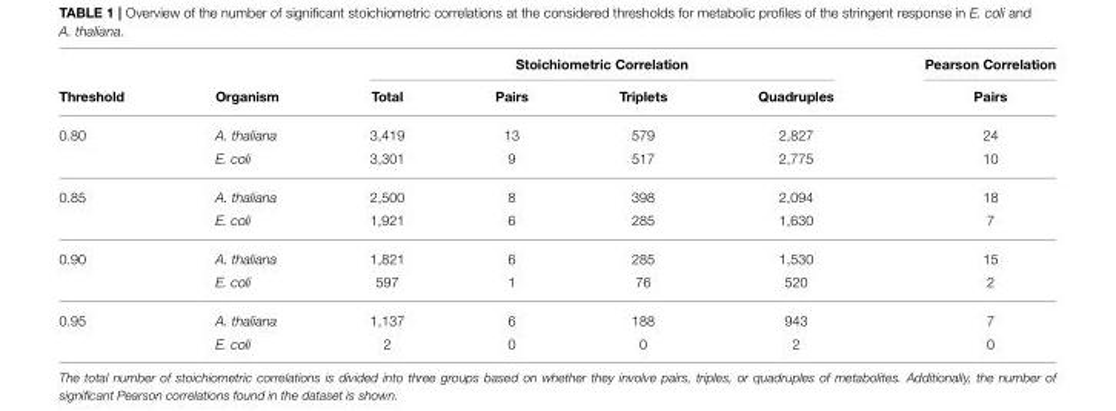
<table><thead><tr><td rowspan="2">Threshold</td><td rowspan="2">Organism</td><td colspan="4">Stoichiometric Correlation</td><td rowspan="2">Pearson Correlation Pairs</td></tr><tr><td>Total</td><td>Pairs</td><td>Triplets</td><td>Quadruples</td></tr></thead><tbody><tr><td rowspan="2">0.80</td><td>A. thaliana</td><td>3,419</td><td>13</td><td>579</td><td>2,827</td><td>24</td></tr><tr><td>E. coli</td><td>3,301</td><td>9</td><td>517</td><td>2,775</td><td>10</td></tr><tr><td rowspan="2">0.85</td><td>A. thaliana</td><td>2,500</td><td>8</td><td>398</td><td>2,094</td><td>18</td></tr><tr><td>E. coli</td><td>1,921</td><td>6</td><td>285</td><td>1,630</td><td>7</td></tr><tr><td rowspan="2">0.90</td><td>A. thaliana</td><td>1,821</td><td>6</td><td>285</td><td>1,530</td><td>15</td></tr><tr><td>E. coli</td><td>597</td><td>1</td><td>76</td><td>520</td><td>2</td></tr><tr><td rowspan="2">0.95</td><td>A. thaliana</td><td>1,137</td><td>6</td><td>188</td><td>943</td><td>7</td></tr><tr><td>E. coli</td><td>2</td><td>0</td><td>0</td><td>2</td><td>0</td></tr></tbody></table>